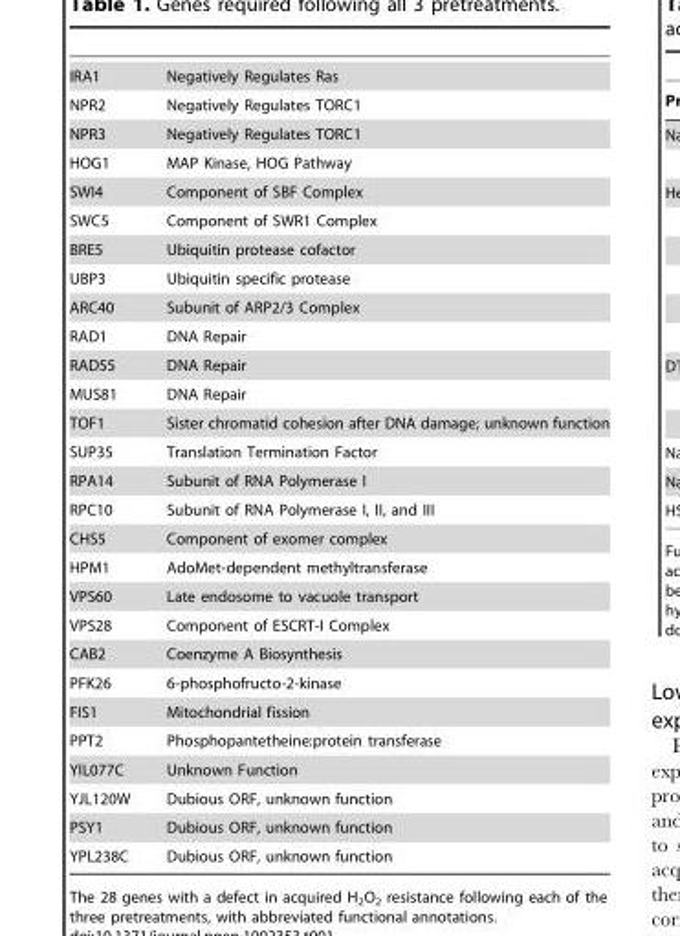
<table><tbody><tr><td>IRA1</td><td>Negatively Regulates Ras</td></tr><tr><td>NPR2</td><td>Negatively Regulates TORC1</td></tr><tr><td>NPR3</td><td>Negatively Regulates TORC1</td></tr><tr><td>HOG1</td><td>MAP Kinase, HOG Pathway</td></tr><tr><td>SWI4</td><td>Component of SBF Complex</td></tr><tr><td>SWC5</td><td>Component of SWR1 Complex</td></tr><tr><td>BRE5</td><td>Ubiquitin protease cofactor</td></tr><tr><td>UBP3</td><td>Ubiquitin specific protease</td></tr><tr><td>ARC40</td><td>Subunit of ARP2/3 Complex</td></tr><tr><td>RAD1</td><td>DNA Repair</td></tr><tr><td>RAD55</td><td>DNA Repair</td></tr><tr><td>MUS81</td><td>DNA Repair</td></tr><tr><td>TOF1</td><td>Sister chromatid cohesion after DNA damage; unknown function</td></tr><tr><td>SUP35</td><td>Translation Termination Factor</td></tr><tr><td>RPA14</td><td>Subunit of RNA Polymerase I</td></tr><tr><td>RPC10</td><td>Subunit of RNA Polymerase I, II, and III</td></tr><tr><td>CHS5</td><td>Component of exomer complex</td></tr><tr><td>HPM1</td><td>AdoMet-dependent methyltransferase</td></tr><tr><td>VPS60</td><td>Late endosome to vacuole transport</td></tr><tr><td>VPS28</td><td>Component of ESCRT-I Complex</td></tr><tr><td>CAB2</td><td>Coenzyme A Biosynthesis</td></tr><tr><td>PFK26</td><td>6-phosphofructo-2-kinase</td></tr><tr><td>FIS1</td><td>Mitochondrial fission</td></tr><tr><td>PPT2</td><td>Phosphopantetheine:protein transferase</td></tr><tr><td>YIL077C</td><td>Unknown Function</td></tr><tr><td>YJL120W</td><td>Dubious ORF, unknown function</td></tr><tr><td>PSY1</td><td>Dubious ORF, unknown function</td></tr><tr><td>YPL238C</td><td>Dubious ORF, unknown function</td></tr></tbody></table>